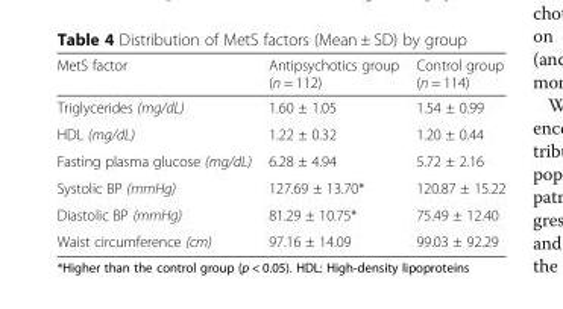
<table><thead><tr><td>MetS factor</td><td>Antipsychotics group (n = 112)</td><td>Control group (n = 114)</td></tr></thead><tbody><tr><td>Triglycerides (mg/dL)</td><td>1.60 ± 1.05</td><td>1.54 ± 0.99</td></tr><tr><td>HDL (mg/dL)</td><td>1.22 ± 0.32</td><td>1.20 ± 0.44</td></tr><tr><td>Fasting plasma glucose (mg/dL)</td><td>6.28 ± 4.94</td><td>5.72 ± 2.16</td></tr><tr><td>Systolic BP (mmHg)</td><td>127.69 ± 13.70*</td><td>120.87 ± 15.22</td></tr><tr><td>Diastolic BP (mmHg)</td><td>81.29 ± 10.75*</td><td>75.49 ± 12.40</td></tr><tr><td>Waist circumference (cm)</td><td>97.16 ± 14.09</td><td>99.03 ± 92.29</td></tr></tbody></table>